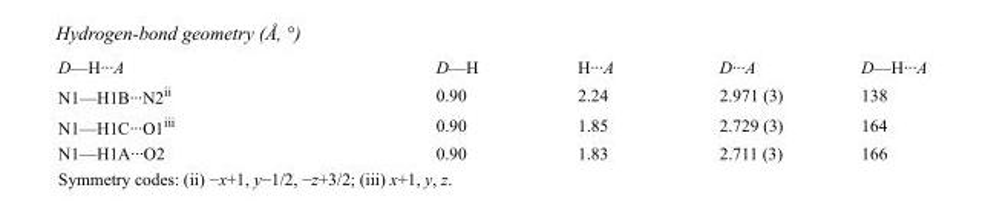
<table><tbody><tr><td>D—H···A</td><td>D—H</td><td>H···A</td><td>D···A</td><td>D—H···A</td></tr><tr><td>N1—H1B···N2<sup>ii</sup></td><td>0.90</td><td>2.24</td><td>2.971 (3)</td><td>138</td></tr><tr><td>N1—H1C···O1<sup>iii</sup></td><td>0.90</td><td>1.85</td><td>2.729 (3)</td><td>164</td></tr><tr><td>N1—H1A···O2</td><td>0.90</td><td>1.83</td><td>2.711 (3)</td><td>166</td></tr></tbody></table>